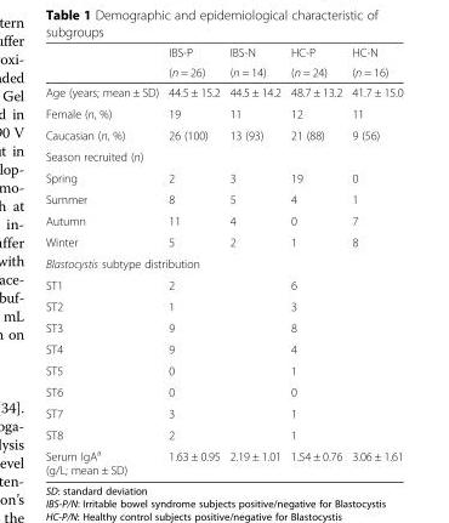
<table><thead><tr><td rowspan="2"></td><td rowspan="2">IBS-P (n = 26)</td><td rowspan="2">IBS-N (n = 14)</td><td rowspan="2">HC-P (n = 24)</td><td rowspan="2">HC-N (n = 16)</td></tr><tr></tr></thead><tbody><tr><td>Age (years; mean ± SD)</td><td>44.5 ± 15.2</td><td>44.5 ± 14.2</td><td>48.7 ± 13.2</td><td>41.7 ± 15.0</td></tr><tr><td>Female (n, %)</td><td>19</td><td>11</td><td>12</td><td>11</td></tr><tr><td>Caucasian (n, %)</td><td>26 (100)</td><td>13 (93)</td><td>21 (88)</td><td>9 (56)</td></tr><tr><td colspan="5">Season recruited (n)</td></tr><tr><td>Spring</td><td>2</td><td>3</td><td>19</td><td>0</td></tr><tr><td>Summer</td><td>8</td><td>5</td><td>4</td><td>1</td></tr><tr><td>Autumn</td><td>11</td><td>4</td><td>0</td><td>7</td></tr><tr><td>Winter</td><td>5</td><td>2</td><td>1</td><td>8</td></tr><tr><td colspan="5">Blastocystis subtype distribution</td></tr><tr><td>ST1</td><td>2</td><td></td><td>6</td><td></td></tr><tr><td>ST2</td><td>1</td><td></td><td>3</td><td></td></tr><tr><td>ST3</td><td>9</td><td></td><td>8</td><td></td></tr><tr><td>ST4</td><td>9</td><td></td><td>4</td><td></td></tr><tr><td>ST5</td><td>0</td><td></td><td>1</td><td></td></tr><tr><td>ST6</td><td>0</td><td></td><td>0</td><td></td></tr><tr><td>ST7</td><td>3</td><td></td><td>1</td><td></td></tr><tr><td>ST8</td><td>2</td><td></td><td>1</td><td></td></tr><tr><td>Serum IgA<sup>a</sup> (g/L; mean ± SD)</td><td>1.63 ± 0.95</td><td>2.19 ± 1.01</td><td>1.54 ± 0.76</td><td>3.06 ± 1.61</td></tr></tbody></table>